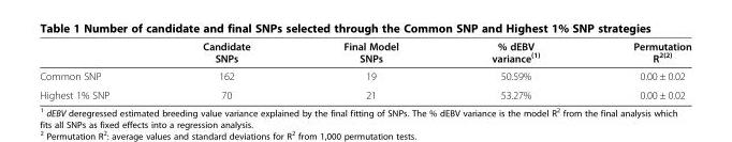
<table><thead><tr><td></td><td>Candidate SNPs</td><td>Final Model SNPs</td><td>% dEBV variance<sup>(1)</sup></td><td>Permutation R<sup>2(2)</sup></td></tr></thead><tbody><tr><td>Common SNP</td><td>162</td><td>19</td><td>50.59%</td><td>0.00 ± 0.02</td></tr><tr><td>Highest 1% SNP</td><td>70</td><td>21</td><td>53.27%</td><td>0.00 ± 0.02</td></tr></tbody></table>